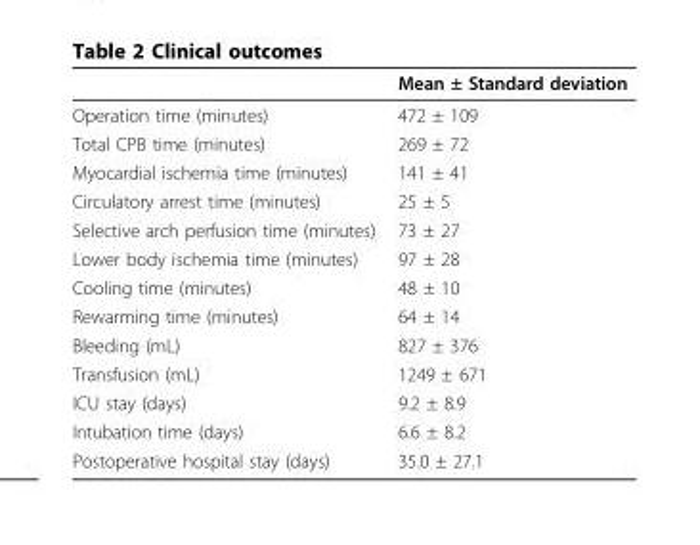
<table><thead><tr><td></td><td>Mean ± Standard deviation</td></tr></thead><tbody><tr><td>Operation time (minutes)</td><td>472 ± 109</td></tr><tr><td>Total CPB time (minutes)</td><td>269 ± 72</td></tr><tr><td>Myocardial ischemia time (minutes)</td><td>141 ± 41</td></tr><tr><td>Circulatory arrest time (minutes)</td><td>25 ± 5</td></tr><tr><td>Selective arch perfusion time (minutes)</td><td>73 ± 27</td></tr><tr><td>Lower body ischemia time (minutes)</td><td>97 ± 28</td></tr><tr><td>Cooling time (minutes)</td><td>48 ± 10</td></tr><tr><td>Rewarming time (minutes)</td><td>64 ± 14</td></tr><tr><td>Bleeding (mL)</td><td>827 ± 376</td></tr><tr><td>Transfusion (mL)</td><td>1249 ± 671</td></tr><tr><td>ICU stay (days)</td><td>9.2 ± 8.9</td></tr><tr><td>Intubation time (days)</td><td>6.6 ± 8.2</td></tr><tr><td>Postoperative hospital stay (days)</td><td>35.0 ± 27.1</td></tr></tbody></table>